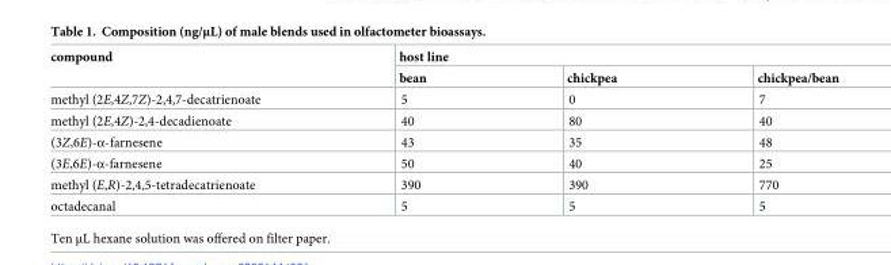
<table><thead><tr><td rowspan="2">compound</td><td colspan="3">host line</td></tr><tr><td>bean</td><td>chickpea</td><td>chickpea/bean</td></tr></thead><tbody><tr><td>methyl (2E,4Z,7Z)-2,4,7-decatrienoate</td><td>5</td><td>0</td><td>7</td></tr><tr><td>methyl (2E,4Z)-2,4-decadienoate</td><td>40</td><td>80</td><td>40</td></tr><tr><td>(3Z,6E)-α-farnesene</td><td>43</td><td>35</td><td>48</td></tr><tr><td>(3E,6E)-α-farnesene</td><td>50</td><td>40</td><td>25</td></tr><tr><td>methyl (E,R)-2,4,5-tetradecatrienoate</td><td>390</td><td>390</td><td>770</td></tr><tr><td>octadecanal</td><td>5</td><td>5</td><td>5</td></tr></tbody></table>